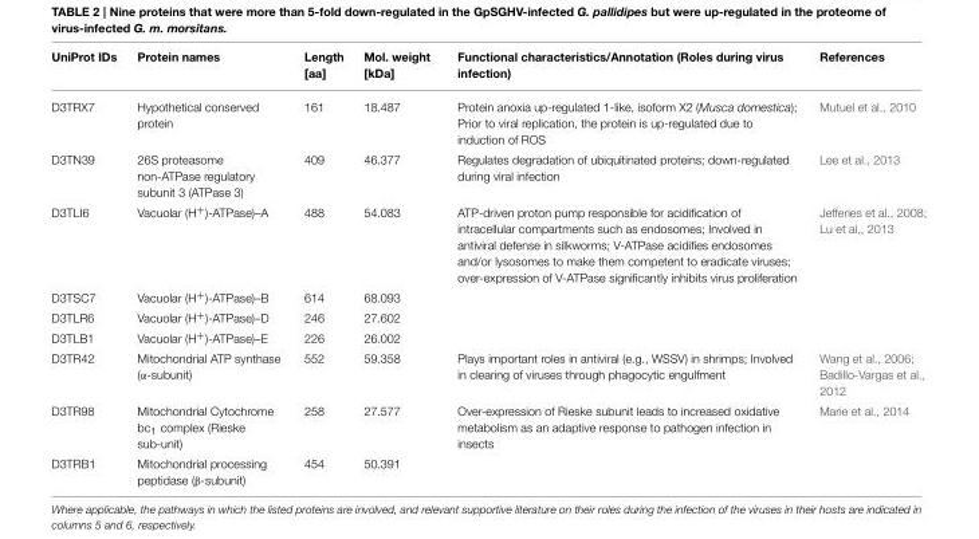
<table><thead><tr><td>UniProt IDs</td><td>Protein names</td><td>Length [aa]</td><td>Mol. weight [kDa]</td><td>Functional characteristics/Annotation (Roles during virus infection)</td><td>References</td></tr></thead><tbody><tr><td>D3TRX7</td><td>Hypothetical conserved protein</td><td>161</td><td>18.487</td><td>Protein anoxia up-regulated 1-like, isoform X2 (Musca domestica); Prior to viral replication, the protein is up-regulated due to induction of ROS</td><td>Mutuel et al., 2010</td></tr><tr><td>D3TN39</td><td>26S proteasome non-ATPase regulatory subunit 3 (ATPase 3)</td><td>409</td><td>46.377</td><td>Regulates degradation of ubiquitinated proteins; down-regulated during viral infection</td><td>Lee et al., 2013</td></tr><tr><td>D3TLI6</td><td>Vacuolar (H<sup>+</sup>)-ATPase)–A</td><td>488</td><td>54.083</td><td>ATP-driven proton pump responsible for acidification of intracellular compartments such as endosomes; Involved in antiviral defense in silkworms; V-ATPase acidifies endosomes and/or lysosomes to make them competent to eradicate viruses; over-expression of V-ATPase significantly inhibits virus proliferation</td><td>Jefferies et al., 2008; Lu et al., 2013</td></tr><tr><td>D3TSC7</td><td>Vacuolar (H<sup>+</sup>)-ATPase)–B</td><td>614</td><td>68.093</td><td></td><td></td></tr><tr><td>D3TLR6</td><td>Vacuolar (H<sup>+</sup>)-ATPase)–D</td><td>246</td><td>27.602</td><td></td><td></td></tr><tr><td>D3TLB1</td><td>Vacuolar (H<sup>+</sup>)-ATPase)–E</td><td>226</td><td>26.002</td><td></td><td></td></tr><tr><td>D3TR42</td><td>Mitochondrial ATP synthase (α-subunit)</td><td>552</td><td>59.358</td><td>Plays important roles in antiviral (e.g., WSSV) in shrimps; Involved in clearing of viruses through phagocytic engulfment</td><td>Wang et al., 2006; Badillo-Vargas et al., 2012</td></tr><tr><td>D3TR98</td><td>Mitochondrial Cytochrome bc<sub>1</sub> complex (Rieske sub-unit)</td><td>258</td><td>27.577</td><td>Over-expression of Rieske subunit leads to increased oxidative metabolism as an adaptive response to pathogen infection in insects</td><td>Marie et al., 2014</td></tr><tr><td>D3TRB1</td><td>Mitochondrial processing peptidase (β-subunit)</td><td>454</td><td>50.391</td><td></td><td></td></tr></tbody></table>